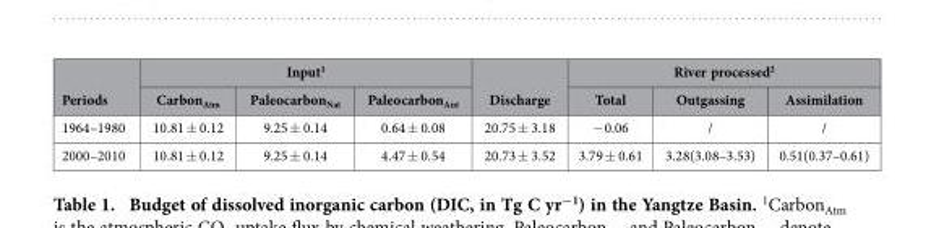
<table><thead><tr><td rowspan="2">Periods</td><td colspan="3">Input<sup>1</sup></td><td rowspan="2">Discharge</td><td colspan="3">River processed<sup>2</sup></td></tr><tr><td>Carbon<sub>Atm</sub></td><td>Paleocarbon<sub>Nat</sub></td><td>Paleocarbon<sub>Ant</sub></td><td>Total</td><td>Outgassing</td><td>Assimilation</td></tr></thead><tbody><tr><td>1964–1980</td><td>10.81 ± 0.12</td><td>9.25 ± 0.14</td><td>0.64 ± 0.08</td><td>20.75 ± 3.18</td><td>− 0.06</td><td>/</td><td>/</td></tr><tr><td>2000–2010</td><td>10.81 ± 0.12</td><td>9.25 ± 0.14</td><td>4.47 ± 0.54</td><td>20.73 ± 3.52</td><td>3.79 ± 0.61</td><td>3.28(3.08–3.53)</td><td>0.51(0.37–0.61)</td></tr></tbody></table>